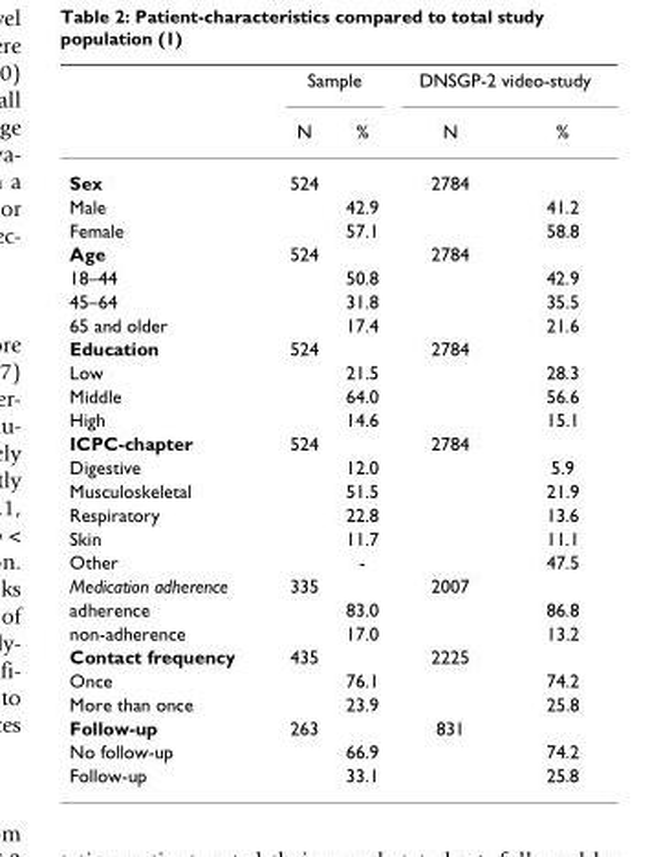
<table><thead><tr><td rowspan="2"></td><td colspan="2">Sample</td><td colspan="2">DNSGP-2 video-study</td></tr><tr><td>N</td><td>%</td><td>N</td><td>%</td></tr></thead><tbody><tr><td>Sex</td><td>524</td><td></td><td>2784</td><td></td></tr><tr><td>Male</td><td></td><td>42.9</td><td></td><td>41.2</td></tr><tr><td>Female</td><td></td><td>57.1</td><td></td><td>58.8</td></tr><tr><td>Age</td><td>524</td><td></td><td>2784</td><td></td></tr><tr><td>18–44</td><td></td><td>50.8</td><td></td><td>42.9</td></tr><tr><td>45–64</td><td></td><td>31.8</td><td></td><td>35.5</td></tr><tr><td>65 and older</td><td></td><td>17.4</td><td></td><td>21.6</td></tr><tr><td>Education</td><td>524</td><td></td><td>2784</td><td></td></tr><tr><td>Low</td><td></td><td>21.5</td><td></td><td>28.3</td></tr><tr><td>Middle</td><td></td><td>64.0</td><td></td><td>56.6</td></tr><tr><td>High</td><td></td><td>14.6</td><td></td><td>15.1</td></tr><tr><td>ICPC-chapter</td><td>524</td><td></td><td>2784</td><td></td></tr><tr><td>Digestive</td><td></td><td>12.0</td><td></td><td>5.9</td></tr><tr><td>Musculoskeletal</td><td></td><td>51.5</td><td></td><td>21.9</td></tr><tr><td>Respiratory</td><td></td><td>22.8</td><td></td><td>13.6</td></tr><tr><td>Skin</td><td></td><td>11.7</td><td></td><td>11.1</td></tr><tr><td>Other</td><td></td><td>-</td><td></td><td>47.5</td></tr><tr><td>Medication adherence</td><td>335</td><td></td><td>2007</td><td></td></tr><tr><td>adherence</td><td></td><td>83.0</td><td></td><td>86.8</td></tr><tr><td>non-adherence</td><td></td><td>17.0</td><td></td><td>13.2</td></tr><tr><td>Contact frequency</td><td>435</td><td></td><td>2225</td><td></td></tr><tr><td>Once</td><td></td><td>76.1</td><td></td><td>74.2</td></tr><tr><td>More than once</td><td></td><td>23.9</td><td></td><td>25.8</td></tr><tr><td>Follow-up</td><td>263</td><td></td><td>831</td><td></td></tr><tr><td>No follow-up</td><td></td><td>66.9</td><td></td><td>74.2</td></tr><tr><td>Follow-up</td><td></td><td>33.1</td><td></td><td>25.8</td></tr></tbody></table>